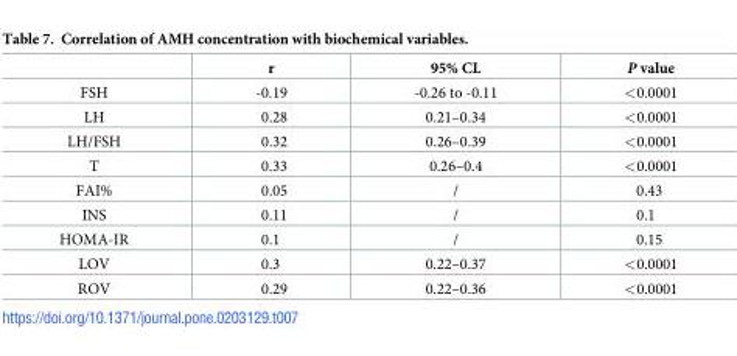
<table><thead><tr><td></td><td>r</td><td>95% CL</td><td>P value</td></tr></thead><tbody><tr><td>FSH</td><td>-0.19</td><td>-0.26 to -0.11</td><td>&lt;0.0001</td></tr><tr><td>LH</td><td>0.28</td><td>0.21–0.34</td><td>&lt;0.0001</td></tr><tr><td>LH/FSH</td><td>0.32</td><td>0.26–0.39</td><td>&lt;0.0001</td></tr><tr><td>T</td><td>0.33</td><td>0.26–0.4</td><td>&lt;0.0001</td></tr><tr><td>FAI%</td><td>0.05</td><td>/</td><td>0.43</td></tr><tr><td>INS</td><td>0.11</td><td>/</td><td>0.1</td></tr><tr><td>HOMA-IR</td><td>0.1</td><td>/</td><td>0.15</td></tr><tr><td>LOV</td><td>0.3</td><td>0.22–0.37</td><td>&lt;0.0001</td></tr><tr><td>ROV</td><td>0.29</td><td>0.22–0.36</td><td>&lt;0.0001</td></tr></tbody></table>